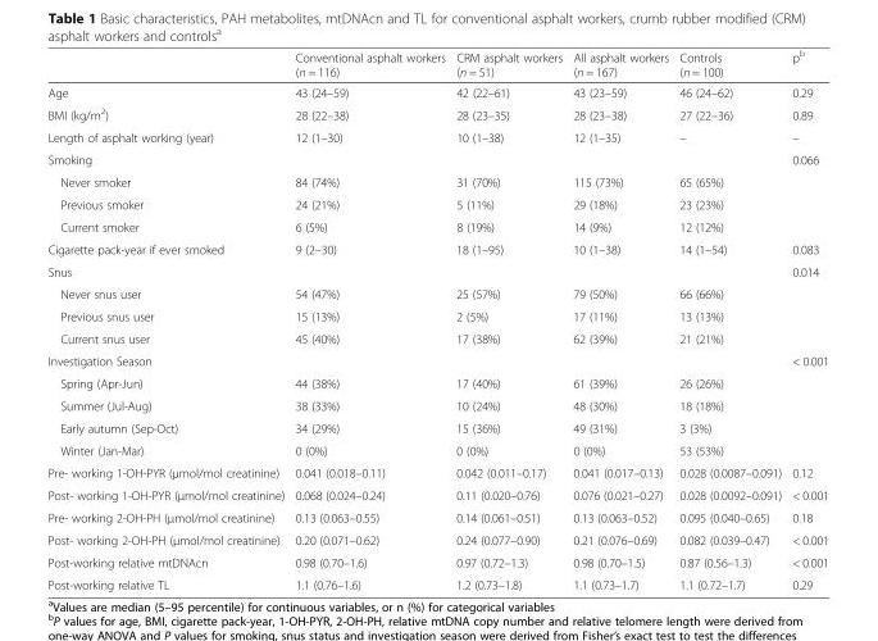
<table><thead><tr><td></td><td>Conventional asphalt workers (n = 116)</td><td>CRM asphalt workers (n = 51)</td><td>All asphalt workers (n = 167)</td><td>Controls (n = 100)</td><td>p<sup>b</sup></td></tr></thead><tbody><tr><td>Age</td><td>43 (24–59)</td><td>42 (22–61)</td><td>43 (23–59)</td><td>46 (24–62)</td><td>0.29</td></tr><tr><td>BMI (kg/m<sup>2</sup>)</td><td>28 (22–38)</td><td>28 (23–35)</td><td>28 (23–38)</td><td>27 (22–36)</td><td>0.89</td></tr><tr><td>Length of asphalt working (year)</td><td>12 (1–30)</td><td>10 (1–38)</td><td>12 (1–35)</td><td>–</td><td>–</td></tr><tr><td>Smoking</td><td></td><td></td><td></td><td></td><td>0.066</td></tr><tr><td>Never smoker</td><td>84 (74%)</td><td>31 (70%)</td><td>115 (73%)</td><td>65 (65%)</td><td></td></tr><tr><td>Previous smoker</td><td>24 (21%)</td><td>5 (11%)</td><td>29 (18%)</td><td>23 (23%)</td><td></td></tr><tr><td>Current smoker</td><td>6 (5%)</td><td>8 (19%)</td><td>14 (9%)</td><td>12 (12%)</td><td></td></tr><tr><td>Cigarette pack-year if ever smoked</td><td>9 (2–30)</td><td>18 (1–95)</td><td>10 (1–38)</td><td>14 (1–54)</td><td>0.083</td></tr><tr><td>Snus</td><td></td><td></td><td></td><td></td><td>0.014</td></tr><tr><td>Never snus user</td><td>54 (47%)</td><td>25 (57%)</td><td>79 (50%)</td><td>66 (66%)</td><td></td></tr><tr><td>Previous snus user</td><td>15 (13%)</td><td>2 (5%)</td><td>17 (11%)</td><td>13 (13%)</td><td></td></tr><tr><td>Current snus user</td><td>45 (40%)</td><td>17 (38%)</td><td>62 (39%)</td><td>21 (21%)</td><td></td></tr><tr><td>Investigation Season</td><td></td><td></td><td></td><td></td><td>&lt; 0.001</td></tr><tr><td>Spring (Apr-Jun)</td><td>44 (38%)</td><td>17 (40%)</td><td>61 (39%)</td><td>26 (26%)</td><td></td></tr><tr><td>Summer (Jul-Aug)</td><td>38 (33%)</td><td>10 (24%)</td><td>48 (30%)</td><td>18 (18%)</td><td></td></tr><tr><td>Early autumn (Sep-Oct)</td><td>34 (29%)</td><td>15 (36%)</td><td>49 (31%)</td><td>3 (3%)</td><td></td></tr><tr><td>Winter (Jan-Mar)</td><td>0 (0%)</td><td>0 (0%)</td><td>0 (0%)</td><td>53 (53%)</td><td></td></tr><tr><td>Pre- working 1-OH-PYR (μmol/mol creatinine)</td><td>0.041 (0.018–0.11)</td><td>0.042 (0.011–0.17)</td><td>0.041 (0.017–0.13)</td><td>0.028 (0.0087–0.091)</td><td>0.12</td></tr><tr><td>Post- working 1-OH-PYR (μmol/mol creatinine)</td><td>0.068 (0.024–0.24)</td><td>0.11 (0.020–0.76)</td><td>0.076 (0.021–0.27)</td><td>0.028 (0.0092–0.091)</td><td>&lt; 0.001</td></tr><tr><td>Pre- working 2-OH-PH (μmol/mol creatinine)</td><td>0.13 (0.063–0.55)</td><td>0.14 (0.061–0.51)</td><td>0.13 (0.063–0.52)</td><td>0.095 (0.040–0.65)</td><td>0.18</td></tr><tr><td>Post- working 2-OH-PH (μmol/mol creatinine)</td><td>0.20 (0.071–0.62)</td><td>0.24 (0.077–0.90)</td><td>0.21 (0.076–0.69)</td><td>0.082 (0.039–0.47)</td><td>&lt; 0.001</td></tr><tr><td>Post-working relative mtDNAcn</td><td>0.98 (0.70–1.6)</td><td>0.97 (0.72–1.3)</td><td>0.98 (0.70–1.5)</td><td>0.87 (0.56–1.3)</td><td>&lt; 0.001</td></tr><tr><td>Post-working relative TL</td><td>1.1 (0.76–1.6)</td><td>1.2 (0.73–1.8)</td><td>1.1 (0.73–1.7)</td><td>1.1 (0.72–1.7)</td><td>0.29</td></tr></tbody></table>